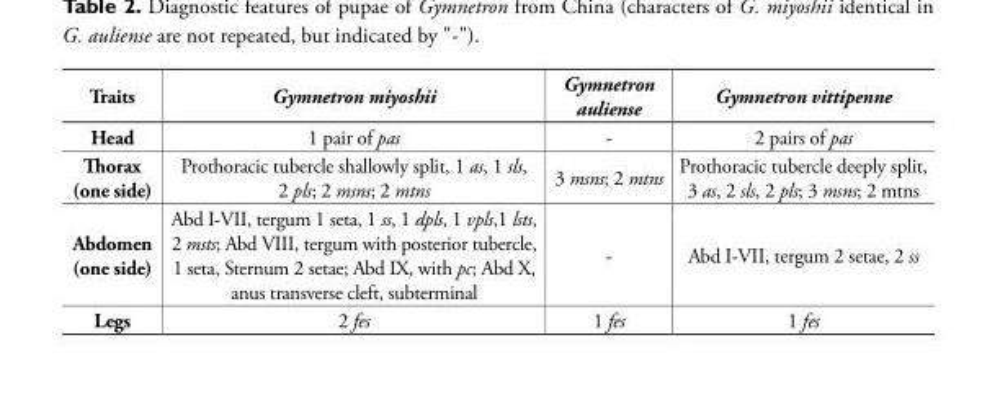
<table><thead><tr><td>Traits</td><td>Gymnetron miyoshii</td><td>Gymnetron auliense</td><td>Gymnetron vittipenne</td></tr></thead><tbody><tr><td>Head</td><td>1 pair of pas</td><td>-</td><td>2 pairs of pas</td></tr><tr><td>Thorax (one side)</td><td>Prothoracic tubercle shallowly split, 1 as, 1 sls, 2 pls; 2 msns; 2 mtns</td><td>3 msns; 2 mtns</td><td>Prothoracic tubercle deeply split, 3 as, 2 sls, 2 pls; 3 msns; 2 mtns</td></tr><tr><td>Abdomen (one side)</td><td>Abd I-VII, tergum 1 seta, 1 ss, 1 dpls, 1 vpls,1 lsts, 2 msts; Abd VIII, tergum with posterior tubercle, 1 seta, Sternum 2 setae; Abd IX, with pc; Abd X, anus transverse cleft, subterminal</td><td>-</td><td>Abd I-VII, tergum 2 setae, 2 ss</td></tr><tr><td>Legs</td><td>2 fes</td><td>1 fes</td><td>1 fes</td></tr></tbody></table>